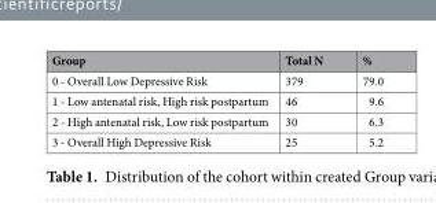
<table><thead><tr><td>Group</td><td>Total N</td><td>%</td></tr></thead><tbody><tr><td>0 - Overall Low Depressive Risk</td><td>379</td><td>79.0</td></tr><tr><td>1 - Low antenatal risk, High risk postpartum</td><td>46</td><td>9.6</td></tr><tr><td>2 - High antenatal risk, Low risk postpartum</td><td>30</td><td>6.3</td></tr><tr><td>3 - Overall High Depressive Risk</td><td>25</td><td>5.2</td></tr></tbody></table>